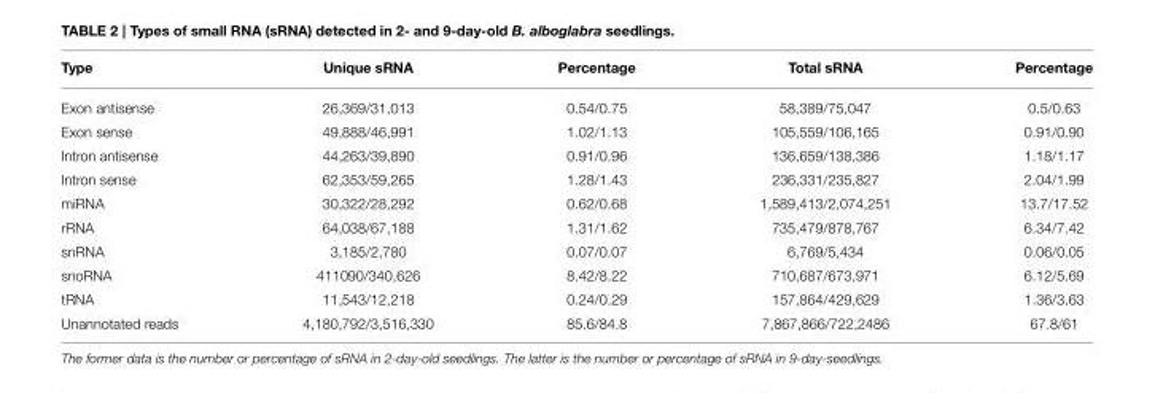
<table><thead><tr><td>Type</td><td>Unique sRNA</td><td>Percentage</td><td>Total sRNA</td><td>Percentage</td></tr></thead><tbody><tr><td>Exon antisense</td><td>26,369/31,013</td><td>0.54/0.75</td><td>58,389/75,047</td><td>0.5/0.63</td></tr><tr><td>Exon sense</td><td>49,888/46,991</td><td>1.02/1.13</td><td>105,559/106,165</td><td>0.91/0.90</td></tr><tr><td>Intron antisense</td><td>44,263/39,890</td><td>0.91/0.96</td><td>136,659/138,386</td><td>1.18/1.17</td></tr><tr><td>Intron sense</td><td>62,353/59,265</td><td>1.28/1.43</td><td>236,331/235,827</td><td>2.04/1.99</td></tr><tr><td>miRNA</td><td>30,322/28,292</td><td>0.62/0.68</td><td>1,589,413/2,074,251</td><td>13.7/17.52</td></tr><tr><td>rRNA</td><td>64,038/67,188</td><td>1.31/1.62</td><td>735,479/878,767</td><td>6.34/7.42</td></tr><tr><td>snRNA</td><td>3,185/2,780</td><td>0.07/0.07</td><td>6,769/5,434</td><td>0.06/0.05</td></tr><tr><td>snoRNA</td><td>411090/340,626</td><td>8.42/8.22</td><td>710,687/673,971</td><td>6.12/5.69</td></tr><tr><td>tRNA</td><td>11,543/12,218</td><td>0.24/0.29</td><td>157,864/429,629</td><td>1.36/3.63</td></tr><tr><td>Unannotated reads</td><td>4,180,792/3,516,330</td><td>85.6/84.8</td><td>7,867,866/722,2486</td><td>67.8/61</td></tr></tbody></table>